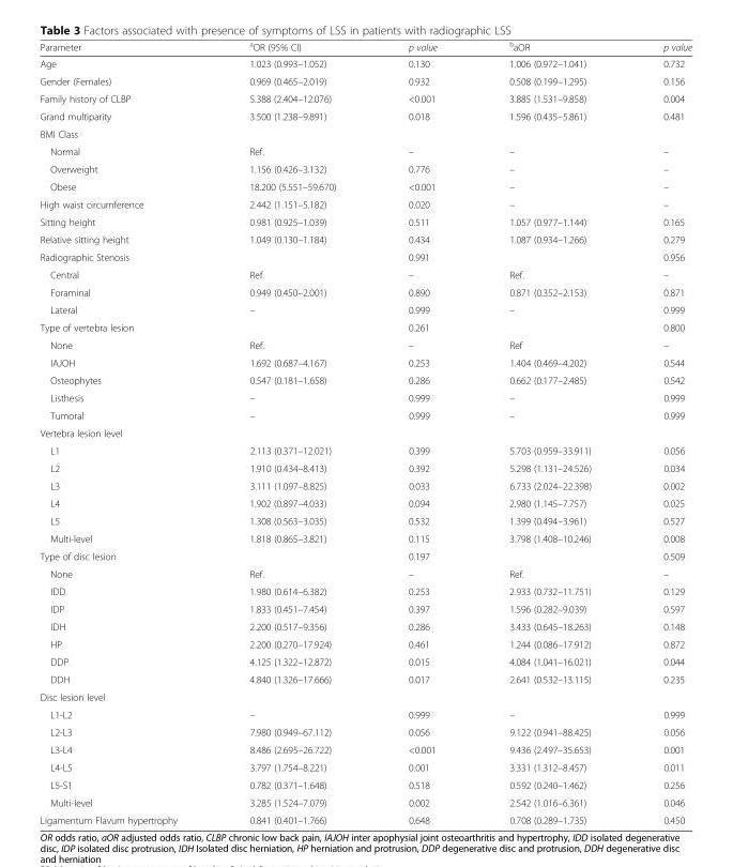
<table><thead><tr><td>Parameter</td><td><sup>a</sup>OR (95% CI)</td><td>p value</td><td><sup>b</sup>aOR</td><td>p value</td></tr></thead><tbody><tr><td>Age</td><td>1.023 (0.993–1.052)</td><td>0.130</td><td>1.006 (0.972–1.041)</td><td>0.732</td></tr><tr><td>Gender (Females)</td><td>0.969 (0.465–2.019)</td><td>0.932</td><td>0.508 (0.199–1.295)</td><td>0.156</td></tr><tr><td>Family history of CLBP</td><td>5.388 (2.404–12.076)</td><td>&lt;0.001</td><td>3.885 (1.531–9.858)</td><td>0.004</td></tr><tr><td>Grand multiparity</td><td>3.500 (1.238–9.891)</td><td>0.018</td><td>1.596 (0.435–5.861)</td><td>0.481</td></tr><tr><td colspan="5">BMI Class</td></tr><tr><td>Normal</td><td>Ref.</td><td>–</td><td>–</td><td>–</td></tr><tr><td>Overweight</td><td>1.156 (0.426–3.132)</td><td>0.776</td><td>–</td><td>–</td></tr><tr><td>Obese</td><td>18.200 (5.551–59.670)</td><td>&lt;0.001</td><td>–</td><td>–</td></tr><tr><td>High waist circumference</td><td>2.442 (1.151–5.182)</td><td>0.020</td><td>–</td><td>–</td></tr><tr><td>Sitting height</td><td>0.981 (0.925–1.039)</td><td>0.511</td><td>1.057 (0.977–1.144)</td><td>0.165</td></tr><tr><td>Relative sitting height</td><td>1.049 (0.130–1.184)</td><td>0.434</td><td>1.087 (0.934–1.266)</td><td>0.279</td></tr><tr><td colspan="2">Radiographic Stenosis</td><td colspan="2">0.991</td><td>0.956</td></tr><tr><td>Central</td><td>Ref.</td><td>–</td><td>Ref.</td><td>–</td></tr><tr><td>Foraminal</td><td>0.949 (0.450–2.001)</td><td>0.890</td><td>0.871 (0.352–2.153)</td><td>0.871</td></tr><tr><td>Lateral</td><td>–</td><td>0.999</td><td>–</td><td>0.999</td></tr><tr><td colspan="2">Type of vertebra lesion</td><td colspan="2">0.261</td><td>0.800</td></tr><tr><td>None</td><td>Ref.</td><td>–</td><td>Ref</td><td>–</td></tr><tr><td>IAJOH</td><td>1.692 (0.687–4.167)</td><td>0.253</td><td>1.404 (0.469–4.202)</td><td>0.544</td></tr><tr><td>Osteophytes</td><td>0.547 (0.181–1.658)</td><td>0.286</td><td>0.662 (0.177–2.485)</td><td>0.542</td></tr><tr><td>Listhesis</td><td>–</td><td>0.999</td><td>–</td><td>0.999</td></tr><tr><td>Tumoral</td><td>–</td><td>0.999</td><td>–</td><td>0.999</td></tr><tr><td colspan="5">Vertebra lesion level</td></tr><tr><td>L1</td><td>2.113 (0.371–12.021)</td><td>0.399</td><td>5.703 (0.959–33.911)</td><td>0.056</td></tr><tr><td>L2</td><td>1.910 (0.434–8.413)</td><td>0.392</td><td>5.298 (1.131–24.526)</td><td>0.034</td></tr><tr><td>L3</td><td>3.111 (1.097–8.825)</td><td>0.033</td><td>6.733 (2.024–22.398)</td><td>0.002</td></tr><tr><td>L4</td><td>1.902 (0.897–4.033)</td><td>0.094</td><td>2.980 (1.145–7.757)</td><td>0.025</td></tr><tr><td>L5</td><td>1.308 (0.563–3.035)</td><td>0.532</td><td>1.399 (0.494–3.961)</td><td>0.527</td></tr><tr><td>Multi-level</td><td>1.818 (0.865–3.821)</td><td>0.115</td><td>3.798 (1.408–10.246)</td><td>0.008</td></tr><tr><td colspan="2">Type of disc lesion</td><td>0.197</td><td></td><td>0.509</td></tr><tr><td>None</td><td>Ref.</td><td>–</td><td>Ref.</td><td>–</td></tr><tr><td>IDD</td><td>1.980 (0.614–6.382)</td><td>0.253</td><td>2.933 (0.732–11.751)</td><td>0.129</td></tr><tr><td>IDP</td><td>1.833 (0.451–7.454)</td><td>0.397</td><td>1.596 (0.282–9.039)</td><td>0.597</td></tr><tr><td>IDH</td><td>2.200 (0.517–9.356)</td><td>0.286</td><td>3.433 (0.645–18.263)</td><td>0.148</td></tr><tr><td>HP</td><td>2.200 (0.270–17.924)</td><td>0.461</td><td>1.244 (0.086–17.912)</td><td>0.872</td></tr><tr><td>DDP</td><td>4.125 (1.322–12.872)</td><td>0.015</td><td>4.084 (1.041–16.021)</td><td>0.044</td></tr><tr><td>DDH</td><td>4.840 (1.326–17.666)</td><td>0.017</td><td>2.641 (0.532–13.115)</td><td>0.235</td></tr><tr><td colspan="5">Disc lesion level</td></tr><tr><td>L1-L2</td><td>–</td><td>0.999</td><td>–</td><td>0.999</td></tr><tr><td>L2-L3</td><td>7.980 (0.949–67.112)</td><td>0.056</td><td>9.122 (0.941–88.425)</td><td>0.056</td></tr><tr><td>L3-L4</td><td>8.486 (2.695–26.722)</td><td>&lt;0.001</td><td>9.436 (2.497–35.653)</td><td>0.001</td></tr><tr><td>L4-L5</td><td>3.797 (1.754–8.221)</td><td>0.001</td><td>3.331 (1.312–8.457)</td><td>0.011</td></tr><tr><td>L5-S1</td><td>0.782 (0.371–1.648)</td><td>0.518</td><td>0.592 (0.240–1.462)</td><td>0.256</td></tr><tr><td>Multi-level</td><td>3.285 (1.524–7.079)</td><td>0.002</td><td>2.542 (1.016–6.361)</td><td>0.046</td></tr><tr><td>Ligamentum Flavum hypertrophy</td><td>0.841 (0.401–1.766)</td><td>0.648</td><td>0.708 (0.289–1.735)</td><td>0.450</td></tr></tbody></table>